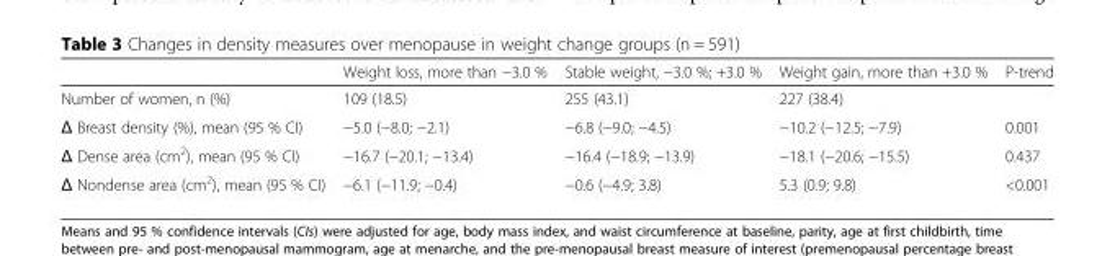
<table><thead><tr><td></td><td>Weight loss, more than −3.0 %</td><td>Stable weight, −3.0 %; +3.0 %</td><td>Weight gain, more than +3.0 %</td><td>P-trend</td></tr></thead><tbody><tr><td>Number of women, n (%)</td><td>109 (18.5)</td><td>255 (43.1)</td><td>227 (38.4)</td><td></td></tr><tr><td>Δ Breast density (%), mean (95 % CI)</td><td>−5.0 (−8.0; −2.1)</td><td>−6.8 (−9.0; −4.5)</td><td>−10.2 (−12.5; −7.9)</td><td>0.001</td></tr><tr><td>Δ Dense area (cm<sup>2</sup>), mean (95 % CI)</td><td>−16.7 (−20.1; −13.4)</td><td>−16.4 (−18.9; −13.9)</td><td>−18.1 (−20.6; −15.5)</td><td>0.437</td></tr><tr><td>Δ Nondense area (cm<sup>2</sup>), mean (95 % CI)</td><td>−6.1 (−11.9; −0.4)</td><td>−0.6 (−4.9; 3.8)</td><td>5.3 (0.9; 9.8)</td><td>&lt;0.001</td></tr></tbody></table>